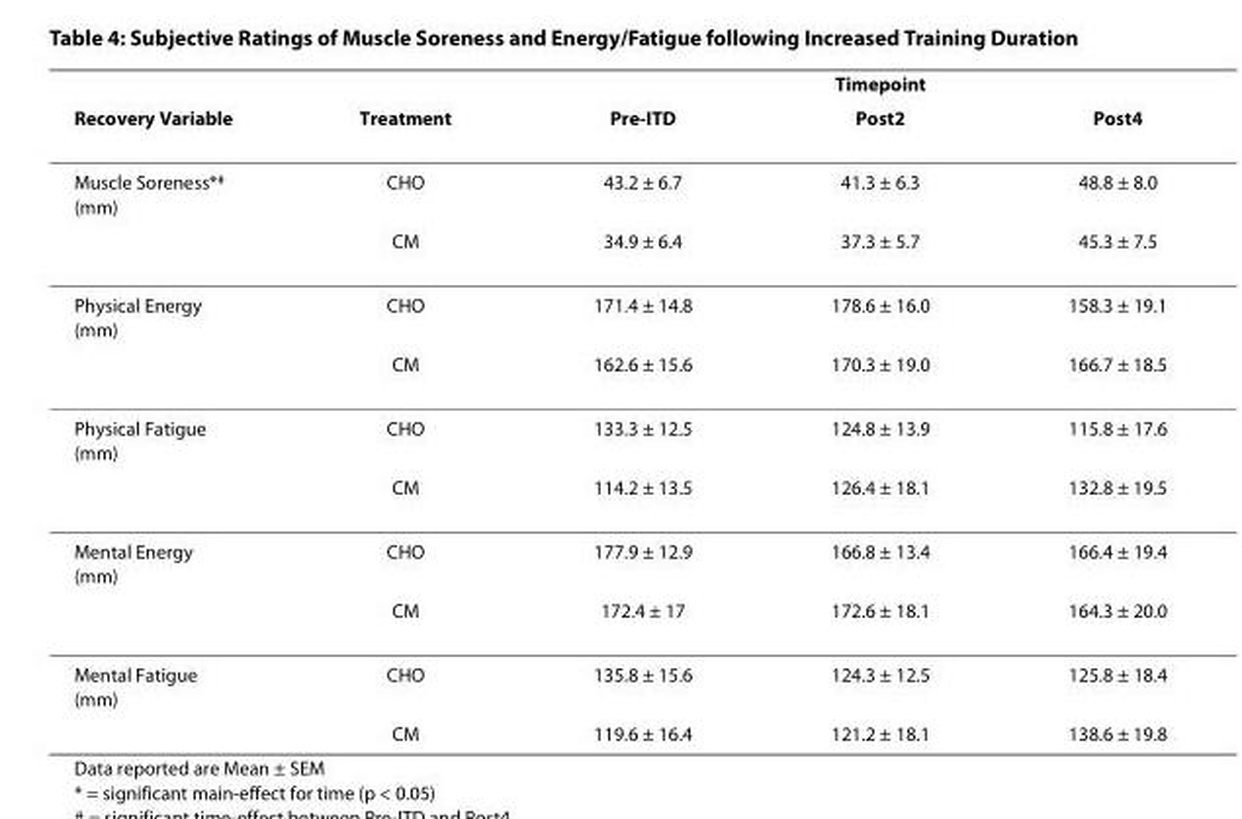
<table><thead><tr><td rowspan="2">Recovery Variable</td><td rowspan="2">Treatment</td><td colspan="3">Timepoint</td></tr><tr><td>Pre-ITD</td><td>Post2</td><td>Post4</td></tr></thead><tbody><tr><td rowspan="2">Muscle Soreness*<sup>#</sup> (mm)</td><td>CHO</td><td>43.2 ± 6.7</td><td>41.3 ± 6.3</td><td>48.8 ± 8.0</td></tr><tr><td>CM</td><td>34.9 ± 6.4</td><td>37.3 ± 5.7</td><td>45.3 ± 7.5</td></tr><tr><td rowspan="2">Physical Energy (mm)</td><td>CHO</td><td>171.4 ± 14.8</td><td>178.6 ± 16.0</td><td>158.3 ± 19.1</td></tr><tr><td>CM</td><td>162.6 ± 15.6</td><td>170.3 ± 19.0</td><td>166.7 ± 18.5</td></tr><tr><td rowspan="2">Physical Fatigue (mm)</td><td>CHO</td><td>133.3 ± 12.5</td><td>124.8 ± 13.9</td><td>115.8 ± 17.6</td></tr><tr><td>CM</td><td>114.2 ± 13.5</td><td>126.4 ± 18.1</td><td>132.8 ± 19.5</td></tr><tr><td rowspan="2">Mental Energy (mm)</td><td>CHO</td><td>177.9 ± 12.9</td><td>166.8 ± 13.4</td><td>166.4 ± 19.4</td></tr><tr><td>CM</td><td>172.4 ± 17</td><td>172.6 ± 18.1</td><td>164.3 ± 20.0</td></tr><tr><td rowspan="2">Mental Fatigue (mm)</td><td>CHO</td><td>135.8 ± 15.6</td><td>124.3 ± 12.5</td><td>125.8 ± 18.4</td></tr><tr><td>CM</td><td>119.6 ± 16.4</td><td>121.2 ± 18.1</td><td>138.6 ± 19.8</td></tr></tbody></table>